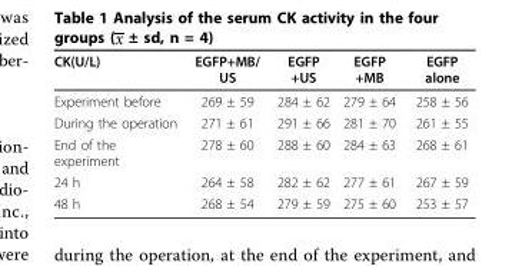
<table><thead><tr><td>CK(U/L)</td><td>EGFP+MB/ US</td><td>EGFP +US</td><td>EGFP +MB</td><td>EGFP alone</td></tr></thead><tbody><tr><td>Experiment before</td><td>269 ± 59</td><td>284 ± 62</td><td>279 ± 64</td><td>258 ± 56</td></tr><tr><td>During the operation</td><td>271 ± 61</td><td>291 ± 66</td><td>281 ± 70</td><td>261 ± 55</td></tr><tr><td>End of the experiment</td><td>278 ± 60</td><td>288 ± 60</td><td>284 ± 63</td><td>268 ± 61</td></tr><tr><td>24 h</td><td>264 ± 58</td><td>282 ± 62</td><td>277 ± 61</td><td>267 ± 59</td></tr><tr><td>48 h</td><td>268 ± 54</td><td>279 ± 59</td><td>275 ± 60</td><td>253 ± 57</td></tr></tbody></table>